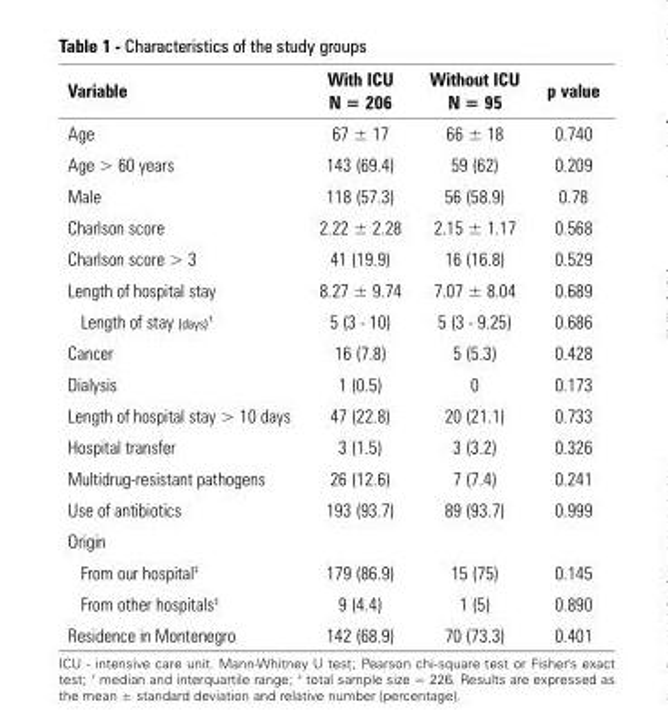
<table><thead><tr><td>Variable</td><td>With ICU N = 206</td><td>Without ICU N = 95</td><td>p value</td></tr></thead><tbody><tr><td>Age</td><td>67 ± 17</td><td>66 ± 18</td><td>0.740</td></tr><tr><td>Age &gt; 60 years</td><td>143 (69.4)</td><td>59 (62)</td><td>0.209</td></tr><tr><td>Male</td><td>118 (57.3)</td><td>56 (58.9)</td><td>0.78</td></tr><tr><td>Charlson score</td><td>2.22 ± 2.28</td><td>2.15 ± 1.17</td><td>0.568</td></tr><tr><td>Charlson score &gt; 3</td><td>41 (19.9)</td><td>16 (16.8)</td><td>0.529</td></tr><tr><td>Length of hospital stay</td><td>8.27 ± 9.74</td><td>7.07 ± 8.04</td><td>0.689</td></tr><tr><td>Length of stay (days)†</td><td>5 (3 - 10)</td><td>5 (3 - 9.25)</td><td>0.686</td></tr><tr><td>Cancer</td><td>16 (7.8)</td><td>5 (5.3)</td><td>0.428</td></tr><tr><td>Dialysis</td><td>1 (0.5)</td><td>0</td><td>0.173</td></tr><tr><td>Length of hospital stay &gt; 10 days</td><td>47 (22.8)</td><td>20 (21.1)</td><td>0.733</td></tr><tr><td>Hospital transfer</td><td>3 (1.5)</td><td>3 (3.2)</td><td>0.326</td></tr><tr><td>Multidrug-resistant pathogens</td><td>26 (12.6)</td><td>7 (7.4)</td><td>0.241</td></tr><tr><td>Use of antibiotics</td><td>193 (93.7)</td><td>89 (93.7)</td><td>0.999</td></tr><tr><td colspan="4">Origin</td></tr><tr><td>From our hospital‡</td><td>179 (86.9)</td><td>15 (75)</td><td>0.145</td></tr><tr><td>From other hospitals‡</td><td>9 (4.4)</td><td>1 (5)</td><td>0.890</td></tr><tr><td>Residence in Montenegro</td><td>142 (68.9)</td><td>70 (73.3)</td><td>0.401</td></tr></tbody></table>